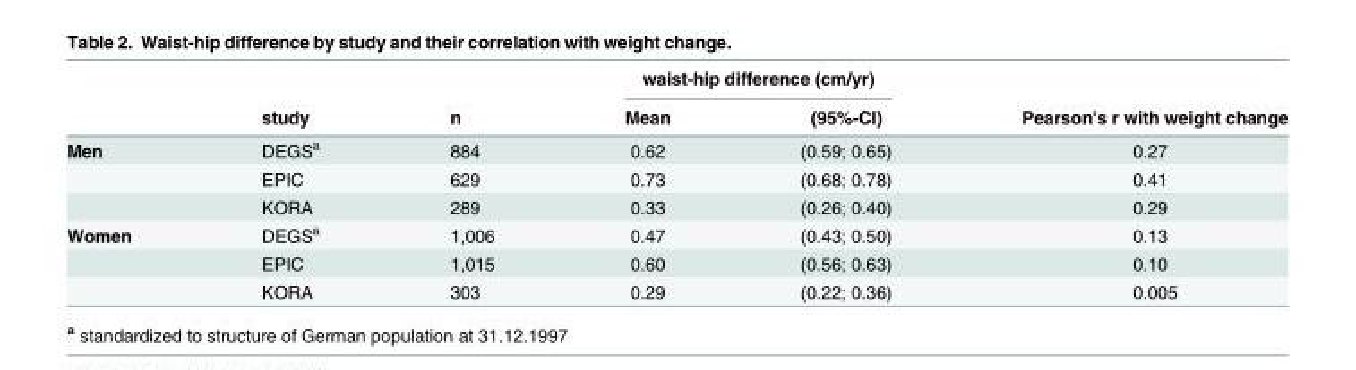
<table><thead><tr><td rowspan="2"></td><td rowspan="2">study</td><td rowspan="2">n</td><td colspan="2">waist-hip difference (cm/yr)</td><td rowspan="2">Pearson&#x27;s r with weight change</td></tr><tr><td>Mean</td><td>(95%-CI)</td></tr></thead><tbody><tr><td rowspan="3">Men</td><td>DEGS<sup>a</sup></td><td>884</td><td>0.62</td><td>(0.59; 0.65)</td><td>0.27</td></tr><tr><td>EPIC</td><td>629</td><td>0.73</td><td>(0.68; 0.78)</td><td>0.41</td></tr><tr><td>KORA</td><td>289</td><td>0.33</td><td>(0.26; 0.40)</td><td>0.29</td></tr><tr><td rowspan="3">Women</td><td>DEGS<sup>a</sup></td><td>1,006</td><td>0.47</td><td>(0.43; 0.50)</td><td>0.13</td></tr><tr><td>EPIC</td><td>1,015</td><td>0.60</td><td>(0.56; 0.63)</td><td>0.10</td></tr><tr><td>KORA</td><td>303</td><td>0.29</td><td>(0.22; 0.36)</td><td>0.005</td></tr></tbody></table>